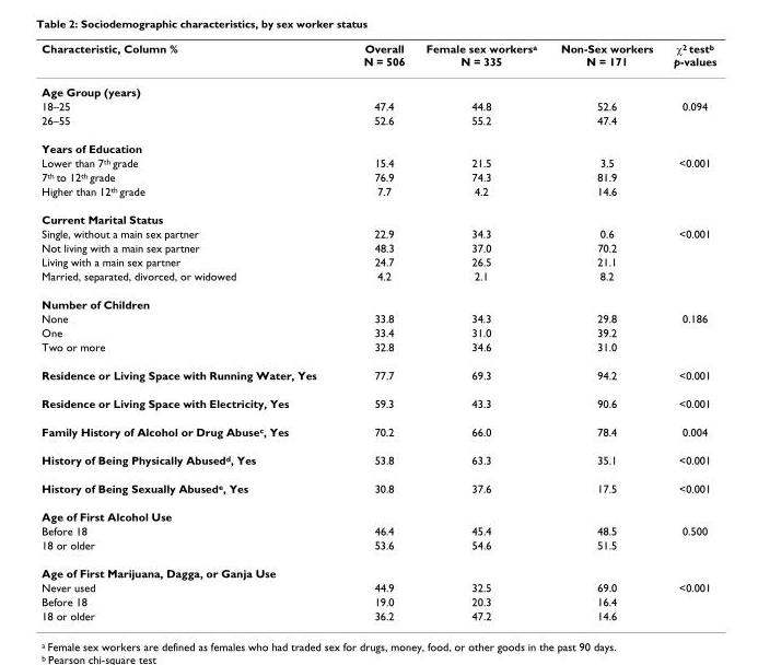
<table><thead><tr><td>Characteristic, Column %</td><td>Overall N = 506</td><td>Female sex workers<sup>a</sup> N = 335</td><td>Non-Sex workers N = 171</td><td>χ<sup>2</sup> test<sup>b</sup> p-values</td></tr></thead><tbody><tr><td colspan="5">Age Group (years)</td></tr><tr><td>18–25</td><td>47.4</td><td>44.8</td><td>52.6</td><td>0.094</td></tr><tr><td>26–55</td><td>52.6</td><td>55.2</td><td>47.4</td><td></td></tr><tr><td colspan="5">Years of Education</td></tr><tr><td>Lower than 7<sup>th</sup> grade</td><td>15.4</td><td>21.5</td><td>3.5</td><td>&lt;0.001</td></tr><tr><td>7<sup>th</sup> to 12<sup>th</sup> grade</td><td>76.9</td><td>74.3</td><td>81.9</td><td></td></tr><tr><td>Higher than 12<sup>th</sup> grade</td><td>7.7</td><td>4.2</td><td>14.6</td><td></td></tr><tr><td colspan="5">Current Marital Status</td></tr><tr><td>Single, without a main sex partner</td><td>22.9</td><td>34.3</td><td>0.6</td><td>&lt;0.001</td></tr><tr><td>Not living with a main sex partner</td><td>48.3</td><td>37.0</td><td>70.2</td><td></td></tr><tr><td>Living with a main sex partner</td><td>24.7</td><td>26.5</td><td>21.1</td><td></td></tr><tr><td>Married, separated, divorced, or widowed</td><td>4.2</td><td>2.1</td><td>8.2</td><td></td></tr><tr><td colspan="5">Number of Children</td></tr><tr><td>None</td><td>33.8</td><td>34.3</td><td>29.8</td><td>0.186</td></tr><tr><td>One</td><td>33.4</td><td>31.0</td><td>39.2</td><td></td></tr><tr><td>Two or more</td><td>32.8</td><td>34.6</td><td>31.0</td><td></td></tr><tr><td>Residence or Living Space with Running Water, Yes</td><td>77.7</td><td>69.3</td><td>94.2</td><td>&lt;0.001</td></tr><tr><td>Residence or Living Space with Electricity, Yes</td><td>59.3</td><td>43.3</td><td>90.6</td><td>&lt;0.001</td></tr><tr><td>Family History of Alcohol or Drug Abuse<sup>c</sup>, Yes</td><td>70.2</td><td>66.0</td><td>78.4</td><td>0.004</td></tr><tr><td>History of Being Physically Abused<sup>d</sup>, Yes</td><td>53.8</td><td>63.3</td><td>35.1</td><td>&lt;0.001</td></tr><tr><td>History of Being Sexually Abused<sup>e</sup>, Yes</td><td>30.8</td><td>37.6</td><td>17.5</td><td>&lt;0.001</td></tr><tr><td colspan="5">Age of First Alcohol Use</td></tr><tr><td>Before 18</td><td>46.4</td><td>45.4</td><td>48.5</td><td>0.500</td></tr><tr><td>18 or older</td><td>53.6</td><td>54.6</td><td>51.5</td><td></td></tr><tr><td colspan="5">Age of First Marijuana, Dagga, or Ganja Use</td></tr><tr><td>Never used</td><td>44.9</td><td>32.5</td><td>69.0</td><td>&lt;0.001</td></tr><tr><td>Before 18</td><td>19.0</td><td>20.3</td><td>16.4</td><td></td></tr><tr><td>18 or older</td><td>36.2</td><td>47.2</td><td>14.6</td><td></td></tr></tbody></table>